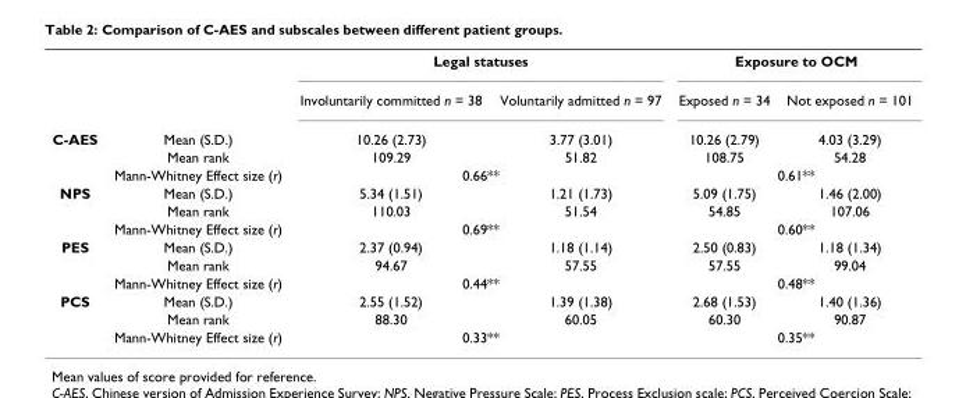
<table><thead><tr><td rowspan="2"></td><td rowspan="2"></td><td colspan="2">Legal statuses</td><td colspan="2">Exposure to OCM</td></tr><tr><td>Involuntarily committed n = 38</td><td>Voluntarily admitted n = 97</td><td>Exposed n = 34</td><td>Not exposed n = 101</td></tr></thead><tbody><tr><td rowspan="3">C-AES</td><td>Mean (S.D.)</td><td>10.26 (2.73)</td><td>3.77 (3.01)</td><td>10.26 (2.79)</td><td>4.03 (3.29)</td></tr><tr><td>Mean rank</td><td>109.29</td><td>51.82</td><td>108.75</td><td>54.28</td></tr><tr><td>Mann-Whitney Effect size (r)</td><td colspan="2">0.66**</td><td colspan="2">0.61**</td></tr><tr><td rowspan="3">NPS</td><td>Mean (S.D.)</td><td>5.34 (1.51)</td><td>1.21 (1.73)</td><td>5.09 (1.75)</td><td>1.46 (2.00)</td></tr><tr><td>Mean rank</td><td>110.03</td><td>51.54</td><td>54.85</td><td>107.06</td></tr><tr><td>Mann-Whitney Effect size (r)</td><td colspan="2">0.69**</td><td colspan="2">0.60**</td></tr><tr><td rowspan="3">PES</td><td>Mean (S.D.)</td><td>2.37 (0.94)</td><td>1.18 (1.14)</td><td>2.50 (0.83)</td><td>1.18 (1.34)</td></tr><tr><td>Mean rank</td><td>94.67</td><td>57.55</td><td>57.55</td><td>99.04</td></tr><tr><td>Mann-Whitney Effect size (r)</td><td colspan="2">0.44**</td><td colspan="2">0.48**</td></tr><tr><td rowspan="3">PCS</td><td>Mean (S.D.)</td><td>2.55 (1.52)</td><td>1.39 (1.38)</td><td>2.68 (1.53)</td><td>1.40 (1.36)</td></tr><tr><td>Mean rank</td><td>88.30</td><td>60.05</td><td>60.30</td><td>90.87</td></tr><tr><td>Mann-Whitney Effect size (r)</td><td colspan="2">0.33**</td><td colspan="2">0.35**</td></tr></tbody></table>